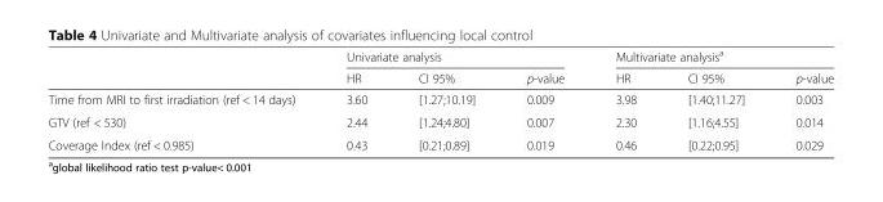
<table><thead><tr><td rowspan="2"></td><td colspan="3">Univariate analysis</td><td colspan="3">Multivariate analysis<sup>a</sup></td></tr><tr><td>HR</td><td>CI 95%</td><td>p-value</td><td>HR</td><td>CI 95%</td><td>p-value</td></tr></thead><tbody><tr><td>Time from MRI to first irradiation (ref &lt; 14 days)</td><td>3.60</td><td>[1.27;10.19]</td><td>0.009</td><td>3.98</td><td>[1.40;11.27]</td><td>0.003</td></tr><tr><td>GTV (ref &lt; 530)</td><td>2.44</td><td>[1.24;4.80]</td><td>0.007</td><td>2.30</td><td>[1.16;4.55]</td><td>0.014</td></tr><tr><td>Coverage Index (ref &lt; 0.985)</td><td>0.43</td><td>[0.21;0.89]</td><td>0.019</td><td>0.46</td><td>[0.22;0.95]</td><td>0.029</td></tr></tbody></table>